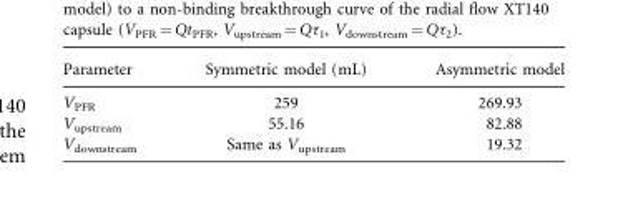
<table><thead><tr><td>Parameter</td><td>Symmetric model (mL)</td><td>Asymmetric model</td></tr></thead><tbody><tr><td>V<sub>PFR</sub></td><td>259</td><td>269.93</td></tr><tr><td>V<sub>upstream</sub></td><td>55.16</td><td>82.88</td></tr><tr><td>V<sub>downstream</sub></td><td>Same as V<sub>upstream</sub></td><td>19.32</td></tr></tbody></table>